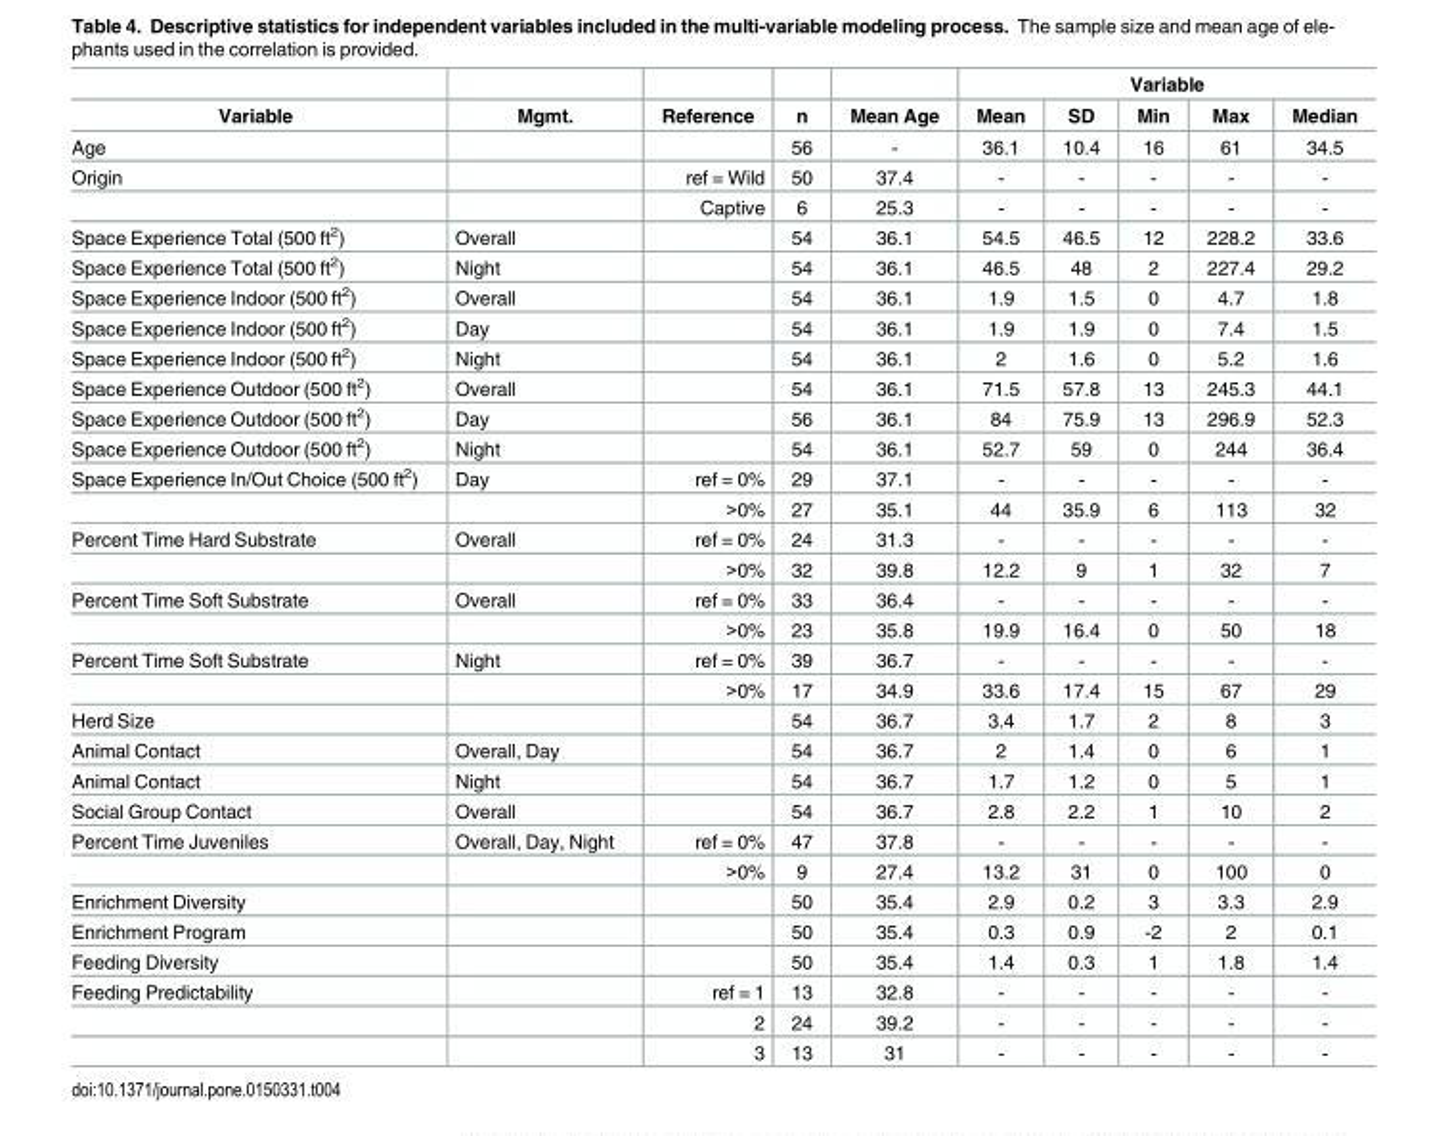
<table><thead><tr><td rowspan="2">Variable</td><td rowspan="2">Mgmt.</td><td rowspan="2">Reference</td><td rowspan="2">n</td><td rowspan="2">Mean Age</td><td colspan="5">Variable</td></tr><tr><td>Mean</td><td>SD</td><td>Min</td><td>Max</td><td>Median</td></tr></thead><tbody><tr><td>Age</td><td></td><td></td><td>56</td><td>-</td><td>36.1</td><td>10.4</td><td>16</td><td>61</td><td>34.5</td></tr><tr><td rowspan="2">Origin</td><td></td><td>ref = Wild</td><td>50</td><td>37.4</td><td>-</td><td>-</td><td>-</td><td>-</td><td>-</td></tr><tr><td></td><td>Captive</td><td>6</td><td>25.3</td><td>-</td><td>-</td><td>-</td><td>-</td><td>-</td></tr><tr><td>Space Experience Total (500 ft<sup>2</sup>)</td><td>Overall</td><td></td><td>54</td><td>36.1</td><td>54.5</td><td>46.5</td><td>12</td><td>228.2</td><td>33.6</td></tr><tr><td>Space Experience Total (500 ft<sup>2</sup>)</td><td>Night</td><td></td><td>54</td><td>36.1</td><td>46.5</td><td>48</td><td>2</td><td>227.4</td><td>29.2</td></tr><tr><td>Space Experience Indoor (500 ft<sup>2</sup>)</td><td>Overall</td><td></td><td>54</td><td>36.1</td><td>1.9</td><td>1.5</td><td>0</td><td>4.7</td><td>1.8</td></tr><tr><td>Space Experience Indoor (500 ft<sup>2</sup>)</td><td>Day</td><td></td><td>54</td><td>36.1</td><td>1.9</td><td>1.9</td><td>0</td><td>7.4</td><td>1.5</td></tr><tr><td>Space Experience Indoor (500 ft<sup>2</sup>)</td><td>Night</td><td></td><td>54</td><td>36.1</td><td>2</td><td>1.6</td><td>0</td><td>5.2</td><td>1.6</td></tr><tr><td>Space Experience Outdoor (500 ft<sup>2</sup>)</td><td>Overall</td><td></td><td>54</td><td>36.1</td><td>71.5</td><td>57.8</td><td>13</td><td>245.3</td><td>44.1</td></tr><tr><td>Space Experience Outdoor (500 ft<sup>2</sup>)</td><td>Day</td><td></td><td>56</td><td>36.1</td><td>84</td><td>75.9</td><td>13</td><td>296.9</td><td>52.3</td></tr><tr><td>Space Experience Outdoor (500 ft<sup>2</sup>)</td><td>Night</td><td></td><td>54</td><td>36.1</td><td>52.7</td><td>59</td><td>0</td><td>244</td><td>36.4</td></tr><tr><td rowspan="2">Space Experience In/Out Choice (500 ft<sup>2</sup>)</td><td>Day</td><td>ref = 0%</td><td>29</td><td>37.1</td><td>-</td><td>-</td><td>-</td><td>-</td><td>-</td></tr><tr><td></td><td>&gt;0%</td><td>27</td><td>35.1</td><td>44</td><td>35.9</td><td>6</td><td>113</td><td>32</td></tr><tr><td rowspan="2">Percent Time Hard Substrate</td><td>Overall</td><td>ref = 0%</td><td>24</td><td>31.3</td><td>-</td><td>-</td><td>-</td><td>-</td><td>-</td></tr><tr><td></td><td>&gt;0%</td><td>32</td><td>39.8</td><td>12.2</td><td>9</td><td>1</td><td>32</td><td>7</td></tr><tr><td rowspan="2">Percent Time Soft Substrate</td><td>Overall</td><td>ref = 0%</td><td>33</td><td>36.4</td><td>-</td><td>-</td><td>-</td><td>-</td><td>-</td></tr><tr><td></td><td>&gt;0%</td><td>23</td><td>35.8</td><td>19.9</td><td>16.4</td><td>0</td><td>50</td><td>18</td></tr><tr><td rowspan="2">Percent Time Soft Substrate</td><td>Night</td><td>ref = 0%</td><td>39</td><td>36.7</td><td>-</td><td>-</td><td>-</td><td>-</td><td>-</td></tr><tr><td></td><td>&gt;0%</td><td>17</td><td>34.9</td><td>33.6</td><td>17.4</td><td>15</td><td>67</td><td>29</td></tr><tr><td>Herd Size</td><td></td><td></td><td>54</td><td>36.7</td><td>3.4</td><td>1.7</td><td>2</td><td>8</td><td>3</td></tr><tr><td>Animal Contact</td><td>Overall, Day</td><td></td><td>54</td><td>36.7</td><td>2</td><td>1.4</td><td>0</td><td>6</td><td>1</td></tr><tr><td>Animal Contact</td><td>Night</td><td></td><td>54</td><td>36.7</td><td>1.7</td><td>1.2</td><td>0</td><td>5</td><td>1</td></tr><tr><td>Social Group Contact</td><td>Overall</td><td></td><td>54</td><td>36.7</td><td>2.8</td><td>2.2</td><td>1</td><td>10</td><td>2</td></tr><tr><td rowspan="2">Percent Time Juveniles</td><td>Overall, Day, Night</td><td>ref = 0%</td><td>47</td><td>37.8</td><td>-</td><td>-</td><td>-</td><td>-</td><td>-</td></tr><tr><td></td><td>&gt;0%</td><td>9</td><td>27.4</td><td>13.2</td><td>31</td><td>0</td><td>100</td><td>0</td></tr><tr><td>Enrichment Diversity</td><td></td><td></td><td>50</td><td>35.4</td><td>2.9</td><td>0.2</td><td>3</td><td>3.3</td><td>2.9</td></tr><tr><td>Enrichment Program</td><td></td><td></td><td>50</td><td>35.4</td><td>0.3</td><td>0.9</td><td>-2</td><td>2</td><td>0.1</td></tr><tr><td>Feeding Diversity</td><td></td><td></td><td>50</td><td>35.4</td><td>1.4</td><td>0.3</td><td>1</td><td>1.8</td><td>1.4</td></tr><tr><td rowspan="3">Feeding Predictability</td><td></td><td>ref = 1</td><td>13</td><td>32.8</td><td>-</td><td>-</td><td>-</td><td>-</td><td>-</td></tr><tr><td></td><td>2</td><td>24</td><td>39.2</td><td>-</td><td>-</td><td>-</td><td>-</td><td>-</td></tr><tr><td></td><td>3</td><td>13</td><td>31</td><td>-</td><td>-</td><td>-</td><td>-</td><td>-</td></tr></tbody></table>